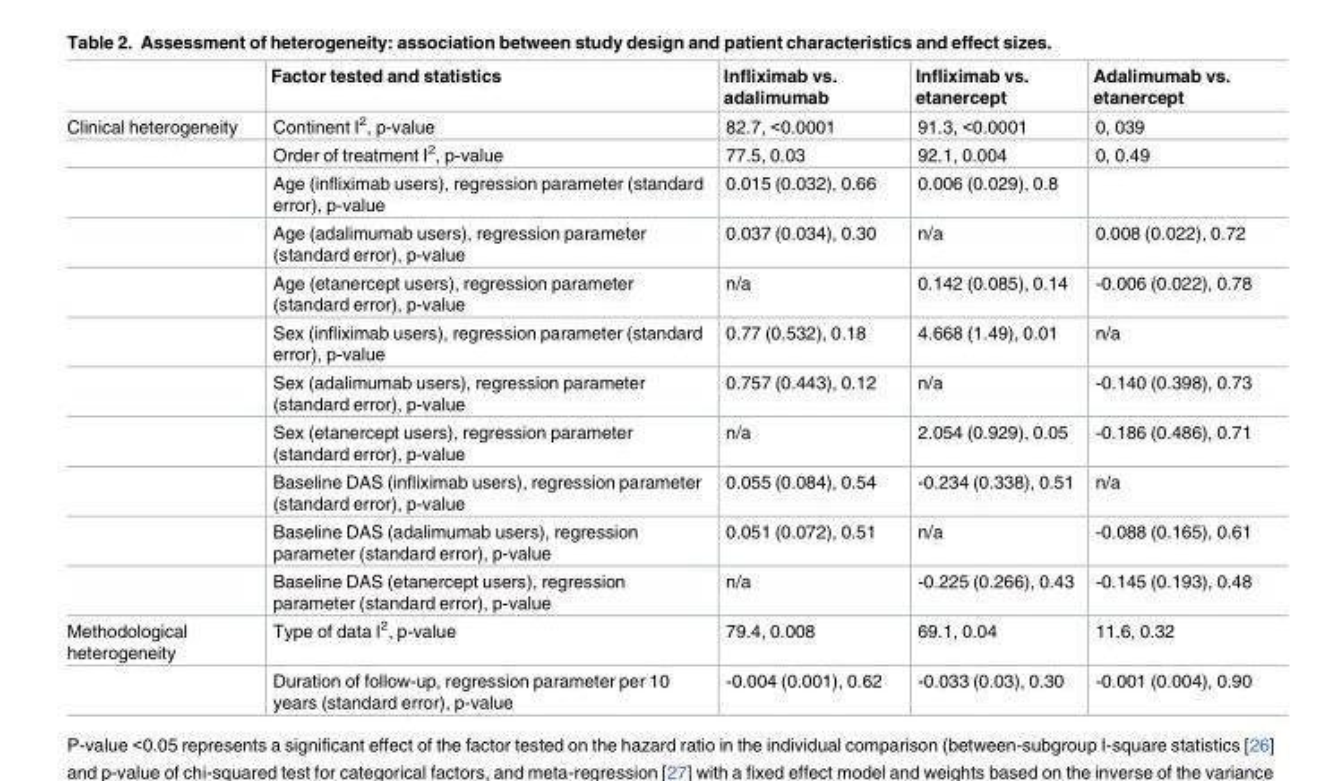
<table><thead><tr><td></td><td>Factor tested and statistics</td><td>Infliximab vs. adalimumab</td><td>Infliximab vs. etanercept</td><td>Adalimumab vs. etanercept</td></tr></thead><tbody><tr><td rowspan="11">Clinical heterogeneity</td><td>Continent I<sup>2</sup>, p-value</td><td>82.7, &lt;0.0001</td><td>91.3, &lt;0.0001</td><td>0, 039</td></tr><tr><td>Order of treatment I<sup>2</sup>, p-value</td><td>77.5, 0.03</td><td>92.1, 0.004</td><td>0, 0.49</td></tr><tr><td>Age (infliximab users), regression parameter (standard error), p-value</td><td>0.015 (0.032), 0.66</td><td>0.006 (0.029), 0.8</td><td></td></tr><tr><td>Age (adalimumab users), regression parameter (standard error), p-value</td><td>0.037 (0.034), 0.30</td><td>n/a</td><td>0.008 (0.022), 0.72</td></tr><tr><td>Age (etanercept users), regression parameter (standard error), p-value</td><td>n/a</td><td>0.142 (0.085), 0.14</td><td>-0.006 (0.022), 0.78</td></tr><tr><td>Sex (infliximab users), regression parameter (standard error), p-value</td><td>0.77 (0.532), 0.18</td><td>4.668 (1.49), 0.01</td><td>n/a</td></tr><tr><td>Sex (adalimumab users), regression parameter (standard error), p-value</td><td>0.757 (0.443), 0.12</td><td>n/a</td><td>-0.140 (0.398), 0.73</td></tr><tr><td>Sex (etanercept users), regression parameter (standard error), p-value</td><td>n/a</td><td>2.054 (0.929), 0.05</td><td>-0.186 (0.486), 0.71</td></tr><tr><td>Baseline DAS (infliximab users), regression parameter (standard error), p-value</td><td>0.055 (0.084), 0.54</td><td>-0.234 (0.338), 0.51</td><td>n/a</td></tr><tr><td>Baseline DAS (adalimumab users), regression parameter (standard error), p-value</td><td>0.051 (0.072), 0.51</td><td>n/a</td><td>-0.088 (0.165), 0.61</td></tr><tr><td>Baseline DAS (etanercept users), regression parameter (standard error), p-value</td><td>n/a</td><td>-0.225 (0.266), 0.43</td><td>-0.145 (0.193), 0.48</td></tr><tr><td rowspan="2">Methodological heterogeneity</td><td>Type of data I<sup>2</sup>, p-value</td><td>79.4, 0.008</td><td>69.1, 0.04</td><td>11.6, 0.32</td></tr><tr><td>Duration of follow-up, regression parameter per 10 years (standard error), p-value</td><td>-0.004 (0.001), 0.62</td><td>-0.033 (0.03), 0.30</td><td>-0.001 (0.004), 0.90</td></tr></tbody></table>